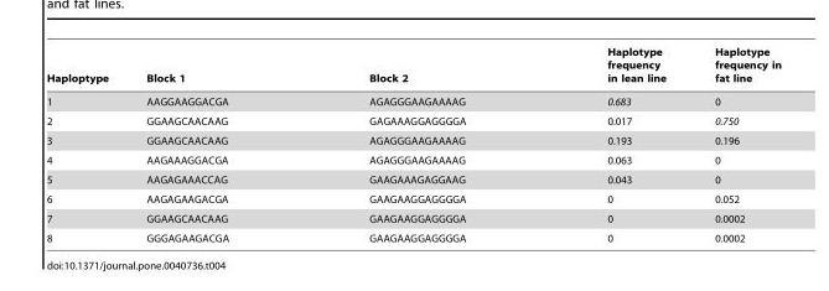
<table><thead><tr><td>Haploptype</td><td>Block 1</td><td>Block 2</td><td>Haplotype frequency in lean line</td><td>Haplotype frequency in fat line</td></tr></thead><tbody><tr><td>1</td><td>AAGGAAGGACGA</td><td>AGAGGGAAGAAAAG</td><td>0.683</td><td>0</td></tr><tr><td>2</td><td>GGAAGCAACAAG</td><td>GAGAAAGGAGGGGA</td><td>0.017</td><td>0.750</td></tr><tr><td>3</td><td>GGAAGCAACAAG</td><td>AGAGGGAAGAAAAG</td><td>0.193</td><td>0.196</td></tr><tr><td>4</td><td>AAGAAAGGACGA</td><td>AGAGGGAAGAAAAG</td><td>0.063</td><td>0</td></tr><tr><td>5</td><td>AAGAGAAACCAG</td><td>GAAGAAAGAGGAAG</td><td>0.043</td><td>0</td></tr><tr><td>6</td><td>AAGAGAAGACGA</td><td>GAAGAAGGAGGGGA</td><td>0</td><td>0.052</td></tr><tr><td>7</td><td>GGAAGCAACAAG</td><td>GAAGAAGGAGGGGA</td><td>0</td><td>0.0002</td></tr><tr><td>8</td><td>GGGAGAAGACGA</td><td>GAAGAAGGAGGGGA</td><td>0</td><td>0.0002</td></tr></tbody></table>